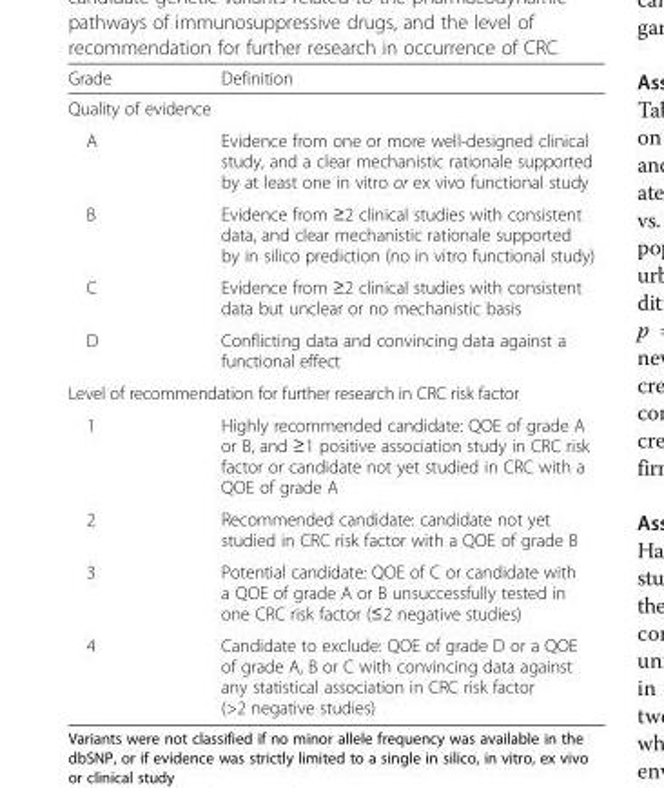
<table><thead><tr><td>Grade</td><td>Definition</td></tr></thead><tbody><tr><td colspan="2">Quality of evidence</td></tr><tr><td>A</td><td>Evidence from one or more well-designed clinical study, and a clear mechanistic rationale supported by at least one in vitro or ex vivo functional study</td></tr><tr><td>B</td><td>Evidence from ≥2 clinical studies with consistent data, and clear mechanistic rationale supported by in silico prediction (no in vitro functional study)</td></tr><tr><td>C</td><td>Evidence from ≥2 clinical studies with consistent data but unclear or no mechanistic basis</td></tr><tr><td>D</td><td>Conflicting data and convincing data against a functional effect</td></tr><tr><td colspan="2">Level of recommendation for further research in CRC risk factor</td></tr><tr><td>1</td><td>Highly recommended candidate: QOE of grade A or B, and ≥1 positive association study in CRC risk factor or candidate not yet studied in CRC with a QOE of grade A</td></tr><tr><td>2</td><td>Recommended candidate: candidate not yet studied in CRC risk factor with a QOE of grade B</td></tr><tr><td>3</td><td>Potential candidate: QOE of C or candidate with a QOE of grade A or B unsuccessfully tested in one CRC risk factor (≤2 negative studies)</td></tr><tr><td>4</td><td>Candidate to exclude: QOE of grade D or a QOE of grade A, B or C with convincing data against any statistical association in CRC risk factor (&gt;2 negative studies)</td></tr></tbody></table>